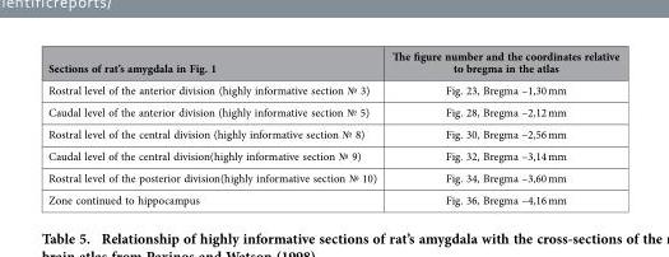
<table><thead><tr><td>Sections of rat’s amygdala in Fig. 1</td><td>The figure number and the coordinates relative to bregma in the atlas</td></tr></thead><tbody><tr><td>Rostral level of the anterior division (highly informative section № 3)</td><td>Fig. 23, Bregma –1,30 mm</td></tr><tr><td>Caudal level of the anterior division (highly informative section № 5)</td><td>Fig. 28, Bregma –2,12 mm</td></tr><tr><td>Rostral level of the central division (highly informative section № 8)</td><td>Fig. 30, Bregma –2,56 mm</td></tr><tr><td>Caudal level of the central division(highly informative section № 9)</td><td>Fig. 32, Bregma –3,14 mm</td></tr><tr><td>Rostral level of the posterior division(highly informative section № 10)</td><td>Fig. 34, Bregma –3,60 mm</td></tr><tr><td>Zone continued to hippocampus</td><td>Fig. 36, Bregma –4,16 mm</td></tr></tbody></table>